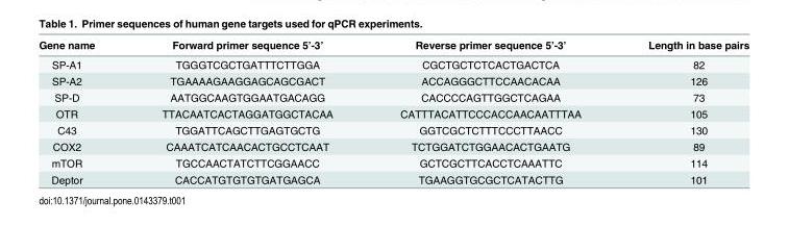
<table><thead><tr><td>Gene name</td><td>Forward primer sequence 5’-3’</td><td>Reverse primer sequence 5’-3’</td><td>Length in base pairs</td></tr></thead><tbody><tr><td>SP-A1</td><td>TGGGTCGCTGATTTCTTGGA</td><td>CGCTGCTCTCACTGACTCA</td><td>82</td></tr><tr><td>SP-A2</td><td>TGAAAAGAAGGAGCAGCGACT</td><td>ACCAGGGCTTCCAACACAA</td><td>126</td></tr><tr><td>SP-D</td><td>AATGGCAAGTGGAATGACAGG</td><td>CACCCCAGTTGGCTCAGAA</td><td>73</td></tr><tr><td>OTR</td><td>TTACAATCACTAGGATGGCTACAA</td><td>CATTTACATTCCCACCAACAATTTAA</td><td>105</td></tr><tr><td>C43</td><td>TGGATTCAGCTTGAGTGCTG</td><td>GGTCGCTCTTTCCCTTAACC</td><td>130</td></tr><tr><td>COX2</td><td>CAAATCATCAACACTGCCTCAAT</td><td>TCTGGATCTGGAACACTGAATG</td><td>89</td></tr><tr><td>mTOR</td><td>TGCCAACTATCTTCGGAACC</td><td>GCTCGCTTCACCTCAAATTC</td><td>114</td></tr><tr><td>Deptor</td><td>CACCATGTGTGTGATGAGCA</td><td>TGAAGGTGCGCTCATACTTG</td><td>101</td></tr></tbody></table>